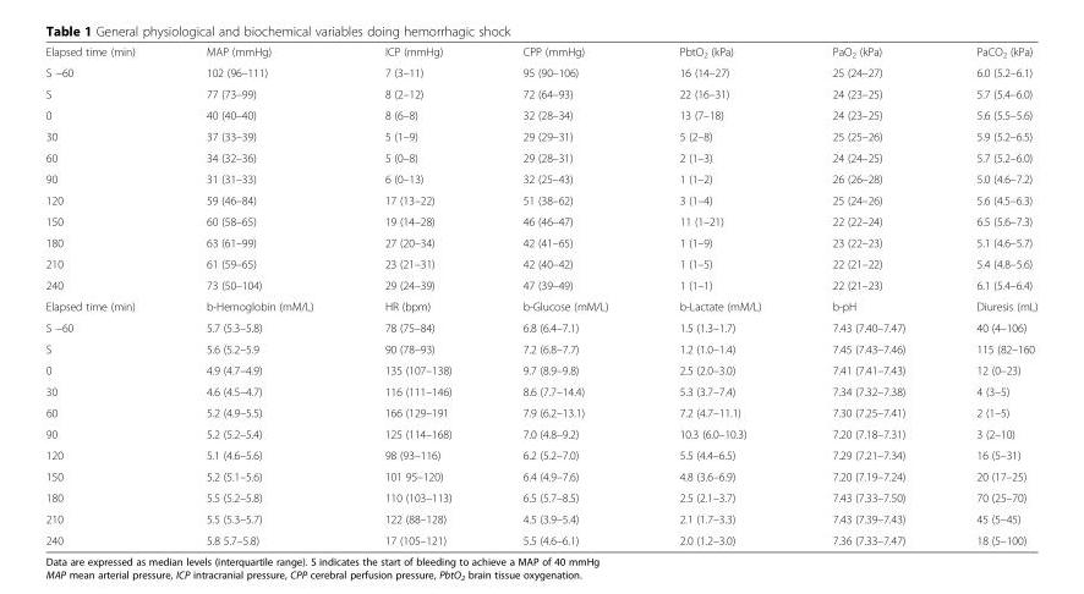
<table><tbody><tr><td>Elapsed time (min)</td><td>MAP (mmHg)</td><td>ICP (mmHg)</td><td>CPP (mmHg)</td><td>PbtO<sub>2</sub> (kPa)</td><td>PaO<sub>2</sub> (kPa)</td><td>PaCO<sub>2</sub> (kPa)</td></tr><tr><td>S −60</td><td>102 (96–111)</td><td>7 (3–11)</td><td>95 (90–106)</td><td>16 (14–27)</td><td>25 (24–27)</td><td>6.0 (5.2–6.1)</td></tr><tr><td>S</td><td>77 (73–99)</td><td>8 (2–12)</td><td>72 (64–93)</td><td>22 (16–31)</td><td>24 (23–25)</td><td>5.7 (5.4–6.0)</td></tr><tr><td>0</td><td>40 (40–40)</td><td>8 (6–8)</td><td>32 (28–34)</td><td>13 (7–18)</td><td>24 (23–25)</td><td>5.6 (5.5–5.6)</td></tr><tr><td>30</td><td>37 (33–39)</td><td>5 (1–9)</td><td>29 (29–31)</td><td>5 (2–8)</td><td>25 (25–26)</td><td>5.9 (5.2–6.5)</td></tr><tr><td>60</td><td>34 (32–36)</td><td>5 (0–8)</td><td>29 (28–31)</td><td>2 (1–3)</td><td>24 (24–25)</td><td>5.7 (5.2–6.0)</td></tr><tr><td>90</td><td>31 (31–33)</td><td>6 (0–13)</td><td>32 (25–43)</td><td>1 (1–2)</td><td>26 (26–28)</td><td>5.0 (4.6–7.2)</td></tr><tr><td>120</td><td>59 (46–84)</td><td>17 (13–22)</td><td>51 (38–62)</td><td>3 (1–4)</td><td>25 (24–26)</td><td>5.6 (4.5–6.3)</td></tr><tr><td>150</td><td>60 (58–65)</td><td>19 (14–28)</td><td>46 (46–47)</td><td>11 (1–21)</td><td>22 (22–24)</td><td>6.5 (5.6–7.3)</td></tr><tr><td>180</td><td>63 (61–99)</td><td>27 (20–34)</td><td>42 (41–65)</td><td>1 (1–9)</td><td>23 (22–23)</td><td>5.1 (4.6–5.7)</td></tr><tr><td>210</td><td>61 (59–65)</td><td>23 (21–31)</td><td>42 (40–42)</td><td>1 (1–5)</td><td>22 (21–22)</td><td>5.4 (4.8–5.6)</td></tr><tr><td>240</td><td>73 (50–104)</td><td>29 (24–39)</td><td>47 (39–49)</td><td>1 (1–1)</td><td>22 (21–23)</td><td>6.1 (5.4–6.4)</td></tr><tr><td>Elapsed time (min)</td><td>b-Hemoglobin (mM/L)</td><td>HR (bpm)</td><td>b-Glucose (mM/L)</td><td>b-Lactate (mM/L)</td><td>b-pH</td><td>Diuresis (mL)</td></tr><tr><td>S −60</td><td>5.7 (5.3–5.8)</td><td>78 (75–84)</td><td>6.8 (6.4–7.1)</td><td>1.5 (1.3–1.7)</td><td>7.43 (7.40–7.47)</td><td>40 (4–106)</td></tr><tr><td>S</td><td>5.6 (5.2–5.9</td><td>90 (78–93)</td><td>7.2 (6.8–7.7)</td><td>1.2 (1.0–1.4)</td><td>7.45 (7.43–7.46)</td><td>115 (82–160</td></tr><tr><td>0</td><td>4.9 (4.7–4.9)</td><td>135 (107–138)</td><td>9.7 (8.9–9.8)</td><td>2.5 (2.0–3.0)</td><td>7.41 (7.41–7.43)</td><td>12 (0–23)</td></tr><tr><td>30</td><td>4.6 (4.5–4.7)</td><td>116 (111–146)</td><td>8.6 (7.7–14.4)</td><td>5.3 (3.7–7.4)</td><td>7.34 (7.32–7.38)</td><td>4 (3–5)</td></tr><tr><td>60</td><td>5.2 (4.9–5.5)</td><td>166 (129–191</td><td>7.9 (6.2–13.1)</td><td>7.2 (4.7–11.1)</td><td>7.30 (7.25–7.41)</td><td>2 (1–5)</td></tr><tr><td>90</td><td>5.2 (5.2–5.4)</td><td>125 (114–168)</td><td>7.0 (4.8–9.2)</td><td>10.3 (6.0–10.3)</td><td>7.20 (7.18–7.31)</td><td>3 (2–10)</td></tr><tr><td>120</td><td>5.1 (4.6–5.6)</td><td>98 (93–116)</td><td>6.2 (5.2–7.0)</td><td>5.5 (4.4–6.5)</td><td>7.29 (7.21–7.34)</td><td>16 (5–31)</td></tr><tr><td>150</td><td>5.2 (5.1–5.6)</td><td>101 95–120)</td><td>6.4 (4.9–7.6)</td><td>4.8 (3.6–6.9)</td><td>7.20 (7.19–7.24)</td><td>20 (17–25)</td></tr><tr><td>180</td><td>5.5 (5.2–5.8)</td><td>110 (103–113)</td><td>6.5 (5.7–8.5)</td><td>2.5 (2.1–3.7)</td><td>7.43 (7.33–7.50)</td><td>70 (25–70)</td></tr><tr><td>210</td><td>5.5 (5.3–5.7)</td><td>122 (88–128)</td><td>4.5 (3.9–5.4)</td><td>2.1 (1.7–3.3)</td><td>7.43 (7.39–7.43)</td><td>45 (5–45)</td></tr><tr><td>240</td><td>5.8 5.7–5.8)</td><td>17 (105–121)</td><td>5.5 (4.6–6.1)</td><td>2.0 (1.2–3.0)</td><td>7.36 (7.33–7.47)</td><td>18 (5–100)</td></tr></tbody></table>